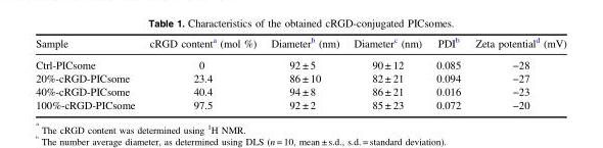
<table><thead><tr><td>Sample</td><td>cRGD content<sup>a</sup> (mol %)</td><td>Diameter<sup>b</sup> (nm)</td><td>Diameter<sup>c</sup> (nm)</td><td>PDI<sup>b</sup></td><td>Zeta potential<sup>d</sup> (mV)</td></tr></thead><tbody><tr><td>Ctrl-PICsome</td><td>0</td><td>92 ± 5</td><td>90 ± 12</td><td>0.085</td><td>−28</td></tr><tr><td>20%-cRGD-PICsome</td><td>23.4</td><td>86 ± 10</td><td>82 ± 21</td><td>0.094</td><td>−27</td></tr><tr><td>40%-cRGD-PICsome</td><td>40.4</td><td>94 ± 8</td><td>86 ± 21</td><td>0.016</td><td>−23</td></tr><tr><td>100%-cRGD-PICsome</td><td>97.5</td><td>92 ± 2</td><td>85 ± 23</td><td>0.072</td><td>−20</td></tr></tbody></table>